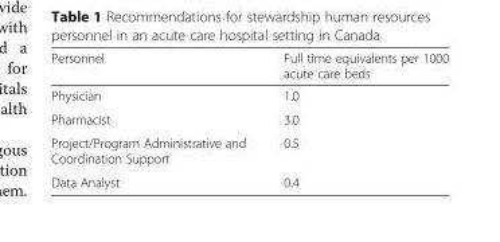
<table><thead><tr><td>Personnel</td><td>Full time equivalents per 1000 acute care beds</td></tr></thead><tbody><tr><td>Physician</td><td>1.0</td></tr><tr><td>Pharmacist</td><td>3.0</td></tr><tr><td>Project/Program Administrative and Coordination Support</td><td>0.5</td></tr><tr><td>Data Analyst</td><td>0.4</td></tr></tbody></table>